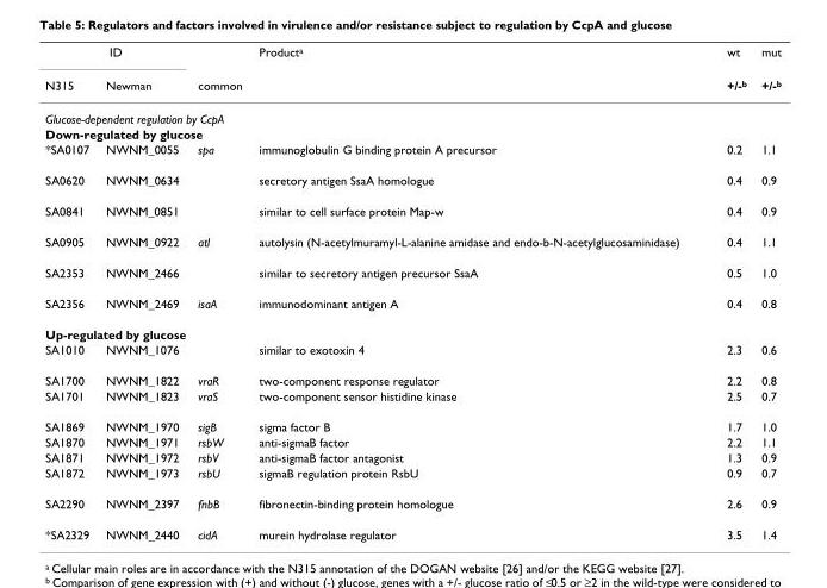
<table><thead><tr><td colspan="2">ID</td><td rowspan="2">common</td><td rowspan="2">Product<sup>a</sup></td><td rowspan="2">wt +/-<sup>b</sup></td><td rowspan="2">mut +/-<sup>b</sup></td></tr><tr><td>N315</td><td>Newman</td></tr></thead><tbody><tr><td colspan="6">Glucose-dependent regulation by CcpA</td></tr><tr><td colspan="6">Down-regulated by glucose</td></tr><tr><td>*SA0107</td><td>NWNM_0055</td><td>spa</td><td>immunoglobulin G binding protein A precursor</td><td>0.2</td><td>1.1</td></tr><tr><td>SA0620</td><td>NWNM_0634</td><td></td><td>secretory antigen SsaA homologue</td><td>0.4</td><td>0.9</td></tr><tr><td>SA0841</td><td>NWNM_0851</td><td></td><td>similar to cell surface protein Map-w</td><td>0.4</td><td>0.9</td></tr><tr><td>SA0905</td><td>NWNM_0922</td><td>atl</td><td>autolysin (N-acetylmuramyl-L-alanine amidase and endo-b-N-acetylglucosaminidase)</td><td>0.4</td><td>1.1</td></tr><tr><td>SA2353</td><td>NWNM_2466</td><td></td><td>similar to secretory antigen precursor SsaA</td><td>0.5</td><td>1.0</td></tr><tr><td>SA2356</td><td>NWNM_2469</td><td>isaA</td><td>immunodominant antigen A</td><td>0.4</td><td>0.8</td></tr><tr><td colspan="6">Up-regulated by glucose</td></tr><tr><td>SA1010</td><td>NWNM_1076</td><td></td><td>similar to exotoxin 4</td><td>2.3</td><td>0.6</td></tr><tr><td>SA1700</td><td>NWNM_1822</td><td>vraR</td><td>two-component response regulator</td><td>2.2</td><td>0.8</td></tr><tr><td>SA1701</td><td>NWNM_1823</td><td>vraS</td><td>two-component sensor histidine kinase</td><td>2.5</td><td>0.7</td></tr><tr><td>SA1869</td><td>NWNM_1970</td><td>sigB</td><td>sigma factor B</td><td>1.7</td><td>1.0</td></tr><tr><td>SA1870</td><td>NWNM_1971</td><td>rsbW</td><td>anti-sigmaB factor</td><td>2.2</td><td>1.1</td></tr><tr><td>SA1871</td><td>NWNM_1972</td><td>rsbV</td><td>anti-sigmaB factor antagonist</td><td>1.3</td><td>0.9</td></tr><tr><td>SA1872</td><td>NWNM_1973</td><td>rsbU</td><td>sigmaB regulation protein RsbU</td><td>0.9</td><td>0.7</td></tr><tr><td>SA2290</td><td>NWNM_2397</td><td>fnbB</td><td>fibronectin-binding protein homologue</td><td>2.6</td><td>0.9</td></tr><tr><td>*SA2329</td><td>NWNM_2440</td><td>cidA</td><td>murein hydrolase regulator</td><td>3.5</td><td>1.4</td></tr></tbody></table>